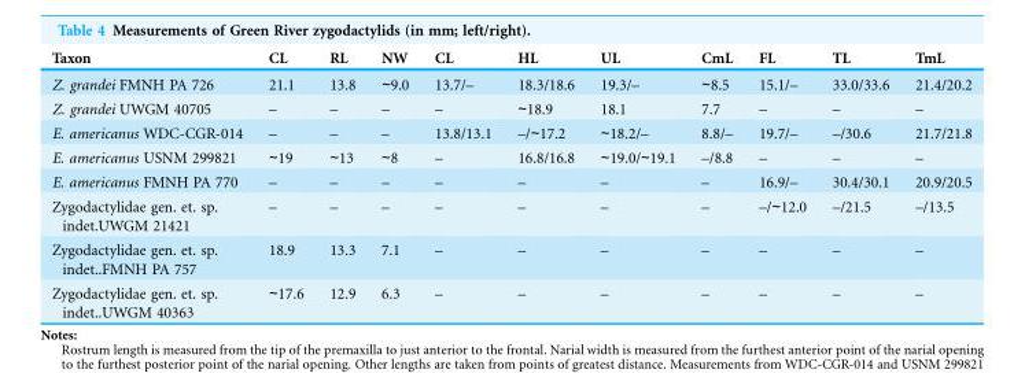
<table><thead><tr><td>Taxon</td><td>CL</td><td>RL</td><td>NW</td><td>CL</td><td>HL</td><td>UL</td><td>CmL</td><td>FL</td><td>TL</td><td>TmL</td></tr></thead><tbody><tr><td>Z. grandei FMNH PA 726</td><td>21.1</td><td>13.8</td><td>∼9.0</td><td>13.7/–</td><td>18.3/18.6</td><td>19.3/–</td><td>∼8.5</td><td>15.1/–</td><td>33.0/33.6</td><td>21.4/20.2</td></tr><tr><td>Z. grandei UWGM 40705</td><td>–</td><td>–</td><td>–</td><td>–</td><td>∼18.9</td><td>18.1</td><td>7.7</td><td>–</td><td>–</td><td>–</td></tr><tr><td>E. americanus WDC-CGR-014</td><td>–</td><td>–</td><td>–</td><td>13.8/13.1</td><td>–/∼17.2</td><td>∼18.2/–</td><td>8.8/–</td><td>19.7/–</td><td>–/30.6</td><td>21.7/21.8</td></tr><tr><td>E. americanus USNM 299821</td><td>∼19</td><td>∼13</td><td>∼8</td><td>–</td><td>16.8/16.8</td><td>∼19.0/∼19.1</td><td>–/8.8</td><td>–</td><td>–</td><td>–</td></tr><tr><td>E. americanus FMNH PA 770</td><td>–</td><td>–</td><td>–</td><td>–</td><td>–</td><td>–</td><td>–</td><td>16.9/–</td><td>30.4/30.1</td><td>20.9/20.5</td></tr><tr><td>Zygodactylidae gen. et. sp. indet.UWGM 21421</td><td>–</td><td>–</td><td>–</td><td>–</td><td>–</td><td>–</td><td>–</td><td>–/∼12.0</td><td>–/21.5</td><td>–/13.5</td></tr><tr><td>Zygodactylidae gen. et. sp. indet..FMNH PA 757</td><td>18.9</td><td>13.3</td><td>7.1</td><td>–</td><td>–</td><td>–</td><td>–</td><td>–</td><td>–</td><td>–</td></tr><tr><td>Zygodactylidae gen. et. sp. indet..UWGM 40363</td><td>∼17.6</td><td>12.9</td><td>6.3</td><td>–</td><td>–</td><td>–</td><td>–</td><td>–</td><td>–</td><td>–</td></tr></tbody></table>